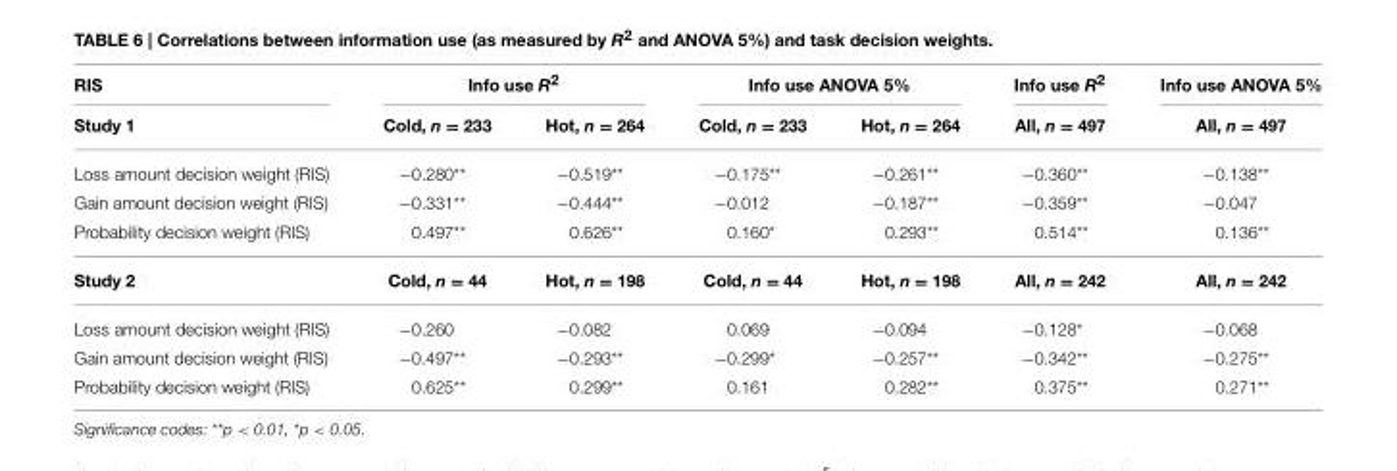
<table><thead><tr><td rowspan="2">RIS Study 1</td><td colspan="2">Info use R<sup>2</sup></td><td colspan="2">Info use ANOVA 5%</td><td rowspan="2">Info use R<sup>2</sup> All, n = 497</td><td rowspan="2">Info use ANOVA 5% All, n = 497</td></tr><tr><td>Cold, n = 233</td><td>Hot, n = 264</td><td>Cold, n = 233</td><td>Hot, n = 264</td></tr></thead><tbody><tr><td>Loss amount decision weight (RIS)</td><td>−0.280**</td><td>−0.519**</td><td>−0.175**</td><td>−0.261**</td><td>−0.360**</td><td>−0.138**</td></tr><tr><td>Gain amount decision weight (RIS)</td><td>−0.331**</td><td>−0.444**</td><td>−0.012</td><td>−0.187**</td><td>−0.359**</td><td>−0.047</td></tr><tr><td>Probability decision weight (RIS)</td><td>0.497**</td><td>0.626**</td><td>0.160*</td><td>0.293**</td><td>0.514**</td><td>0.136**</td></tr><tr><td>Study 2</td><td>Cold, n = 44</td><td>Hot, n = 198</td><td>Cold, n = 44</td><td>Hot, n = 198</td><td>All, n = 242</td><td>All, n = 242</td></tr><tr><td>Loss amount decision weight (RIS)</td><td>−0.260</td><td>−0.082</td><td>0.069</td><td>−0.094</td><td>−0.128*</td><td>−0.068</td></tr><tr><td>Gain amount decision weight (RIS)</td><td>−0.497**</td><td>−0.293**</td><td>−0.299*</td><td>−0.257**</td><td>−0.342**</td><td>−0.275**</td></tr><tr><td>Probability decision weight (RIS)</td><td>0.625**</td><td>0.299**</td><td>0.161</td><td>0.282**</td><td>0.375**</td><td>0.271**</td></tr></tbody></table>